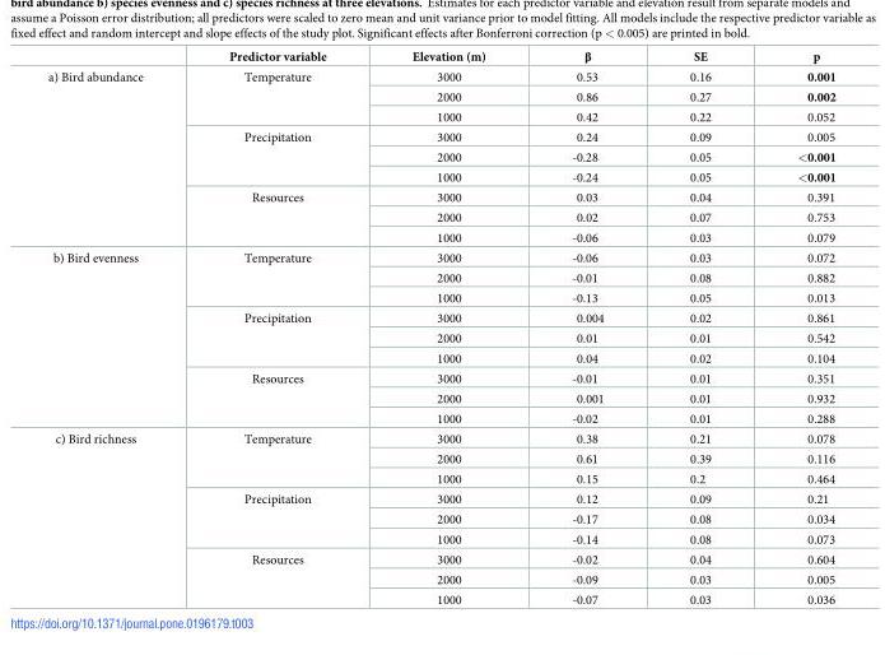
<table><thead><tr><td></td><td>Predictor variable</td><td>Elevation (m)</td><td>β</td><td>SE</td><td>p</td></tr></thead><tbody><tr><td rowspan="9">a) Bird abundance</td><td rowspan="3">Temperature</td><td>3000</td><td>0.53</td><td>0.16</td><td>0.001</td></tr><tr><td>2000</td><td>0.86</td><td>0.27</td><td>0.002</td></tr><tr><td>1000</td><td>0.42</td><td>0.22</td><td>0.052</td></tr><tr><td rowspan="3">Precipitation</td><td>3000</td><td>0.24</td><td>0.09</td><td>0.005</td></tr><tr><td>2000</td><td>-0.28</td><td>0.05</td><td>&lt;0.001</td></tr><tr><td>1000</td><td>-0.24</td><td>0.05</td><td>&lt;0.001</td></tr><tr><td rowspan="3">Resources</td><td>3000</td><td>0.03</td><td>0.04</td><td>0.391</td></tr><tr><td>2000</td><td>0.02</td><td>0.07</td><td>0.753</td></tr><tr><td>1000</td><td>-0.06</td><td>0.03</td><td>0.079</td></tr><tr><td rowspan="9">b) Bird evenness</td><td rowspan="3">Temperature</td><td>3000</td><td>-0.06</td><td>0.03</td><td>0.072</td></tr><tr><td>2000</td><td>-0.01</td><td>0.08</td><td>0.882</td></tr><tr><td>1000</td><td>-0.13</td><td>0.05</td><td>0.013</td></tr><tr><td rowspan="3">Precipitation</td><td>3000</td><td>0.004</td><td>0.02</td><td>0.861</td></tr><tr><td>2000</td><td>0.01</td><td>0.01</td><td>0.542</td></tr><tr><td>1000</td><td>0.04</td><td>0.02</td><td>0.104</td></tr><tr><td rowspan="3">Resources</td><td>3000</td><td>-0.01</td><td>0.01</td><td>0.351</td></tr><tr><td>2000</td><td>0.001</td><td>0.01</td><td>0.932</td></tr><tr><td>1000</td><td>-0.02</td><td>0.01</td><td>0.288</td></tr><tr><td rowspan="9">c) Bird richness</td><td rowspan="3">Temperature</td><td>3000</td><td>0.38</td><td>0.21</td><td>0.078</td></tr><tr><td>2000</td><td>0.61</td><td>0.39</td><td>0.116</td></tr><tr><td>1000</td><td>0.15</td><td>0.2</td><td>0.464</td></tr><tr><td rowspan="3">Precipitation</td><td>3000</td><td>0.12</td><td>0.09</td><td>0.21</td></tr><tr><td>2000</td><td>-0.17</td><td>0.08</td><td>0.034</td></tr><tr><td>1000</td><td>-0.14</td><td>0.08</td><td>0.073</td></tr><tr><td rowspan="3">Resources</td><td>3000</td><td>-0.02</td><td>0.04</td><td>0.604</td></tr><tr><td>2000</td><td>-0.09</td><td>0.03</td><td>0.005</td></tr><tr><td>1000</td><td>-0.07</td><td>0.03</td><td>0.036</td></tr></tbody></table>